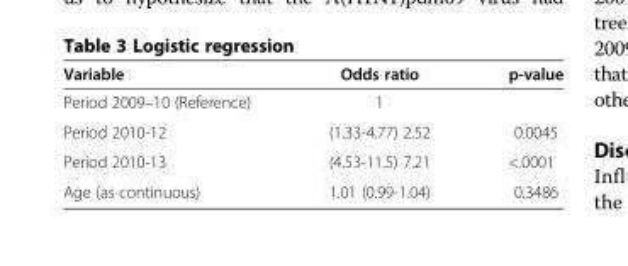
<table><thead><tr><td>Variable</td><td>Odds ratio</td><td>p-value</td></tr></thead><tbody><tr><td>Period 2009–10 (Reference)</td><td>1</td><td></td></tr><tr><td>Period 2010-12</td><td>(1.33-4.77) 2.52</td><td>0.0045</td></tr><tr><td>Period 2010-13</td><td>(4.53-11.5) 7.21</td><td>&lt;.0001</td></tr><tr><td>Age (as continuous)</td><td>1.01 (0.99-1.04)</td><td>0.3486</td></tr></tbody></table>